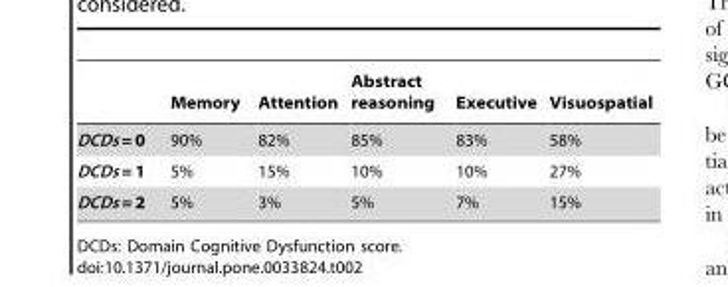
<table><thead><tr><td></td><td>Memory</td><td>Attention</td><td>Abstract reasoning</td><td>Executive</td><td>Visuospatial</td></tr></thead><tbody><tr><td>DCDs = 0</td><td>90%</td><td>82%</td><td>85%</td><td>83%</td><td>58%</td></tr><tr><td>DCDs = 1</td><td>5%</td><td>15%</td><td>10%</td><td>10%</td><td>27%</td></tr><tr><td>DCDs = 2</td><td>5%</td><td>3%</td><td>5%</td><td>7%</td><td>15%</td></tr></tbody></table>